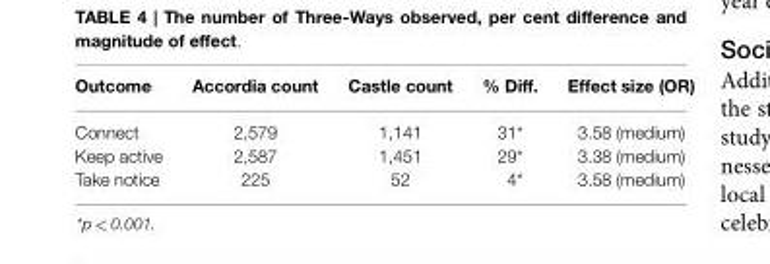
<table><thead><tr><td>Outcome</td><td>Accordia count</td><td>Castle count</td><td>% Diff.</td><td>Effect size (OR)</td></tr></thead><tbody><tr><td>Connect</td><td>2,579</td><td>1,141</td><td>31*</td><td>3.58 (medium)</td></tr><tr><td>Keep active</td><td>2,587</td><td>1,451</td><td>29*</td><td>3.38 (medium)</td></tr><tr><td>Take notice</td><td>225</td><td>52</td><td>4*</td><td>3.58 (medium)</td></tr></tbody></table>